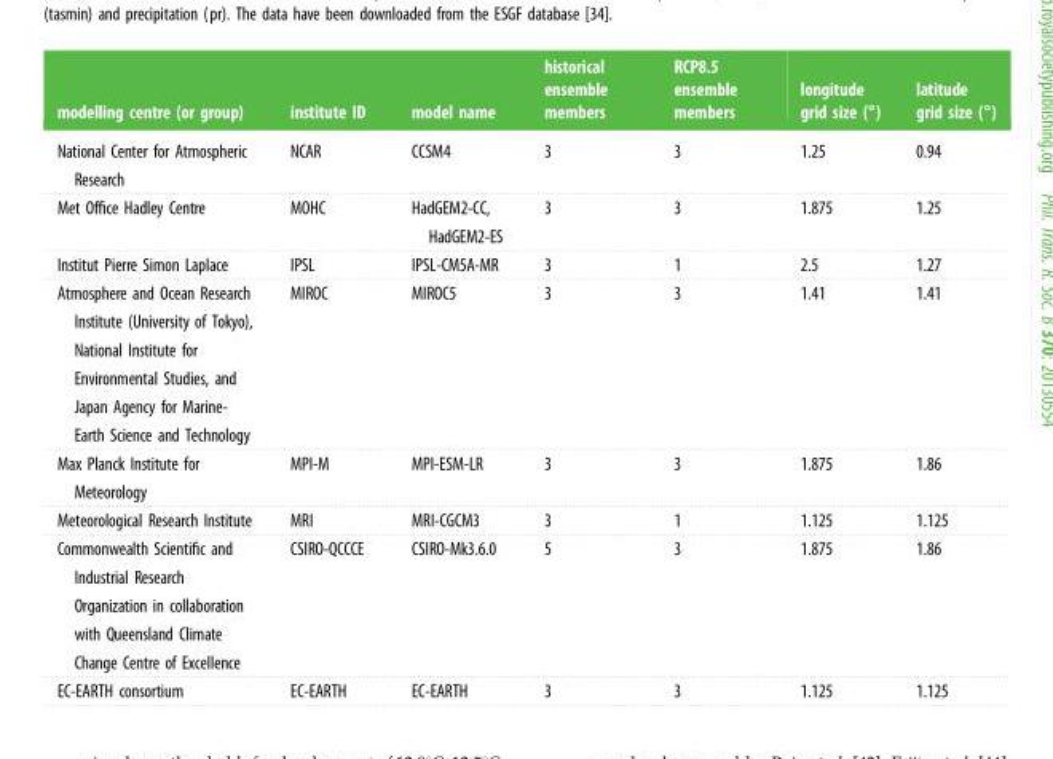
<table><thead><tr><td>modelling centre (or group)</td><td>institute ID</td><td>model name</td><td>historical ensemble members</td><td>RCP8.5 ensemble members</td><td>longitude grid size (88888)</td><td>latitude grid size (88888)</td></tr></thead><tbody><tr><td>National Center for Atmospheric Research</td><td>NCAR</td><td>CCSM4</td><td>3</td><td>3</td><td>1.25</td><td>0.94</td></tr><tr><td>Met Office Hadley Centre</td><td>MOHC</td><td>HadGEM2-CC, HadGEM2-ES</td><td>3</td><td>3</td><td>1.875</td><td>1.25</td></tr><tr><td>Institut Pierre Simon Laplace</td><td>IPSL</td><td>IPSL-CM5A-MR</td><td>3</td><td>1</td><td>2.5</td><td>1.27</td></tr><tr><td>Atmosphere and Ocean Research Institute (University of Tokyo), National Institute for Environmental Studies, and Japan Agency for Marine- Earth Science and Technology</td><td>MIROC</td><td>MIROC5</td><td>3</td><td>3</td><td>1.41</td><td>1.41</td></tr><tr><td>Max Planck Institute for Meteorology</td><td>MPI-M</td><td>MPI-ESM-LR</td><td>3</td><td>3</td><td>1.875</td><td>1.86</td></tr><tr><td>Meteorological Research Institute</td><td>MRI</td><td>MRI-CGCM3</td><td>3</td><td>1</td><td>1.125</td><td>1.125</td></tr><tr><td>Commonwealth Scientific and Industrial Research Organization in collaboration with Queensland Climate Change Centre of Excellence</td><td>CSIRO-QCCCE</td><td>CSIRO-Mk3.6.0</td><td>5</td><td>3</td><td>1.875</td><td>1.86</td></tr><tr><td>EC-EARTH consortium</td><td>EC-EARTH</td><td>EC-EARTH</td><td>3</td><td>3</td><td>1.125</td><td>1.125</td></tr></tbody></table>